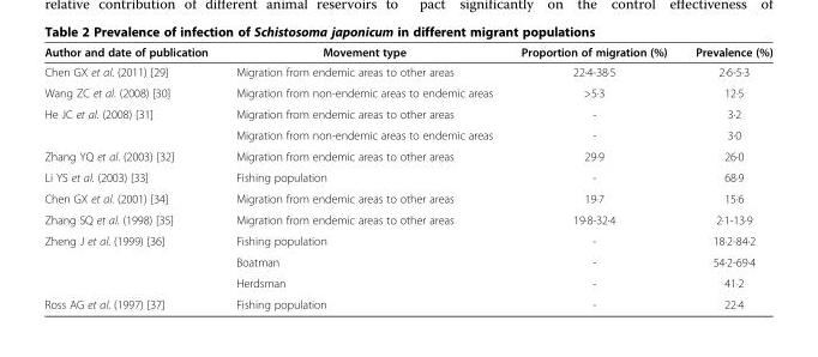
<table><thead><tr><td>Author and date of publication</td><td>Movement type</td><td>Proportion of migration (%)</td><td>Prevalence (%)</td></tr></thead><tbody><tr><td>Chen GX et al. (2011) [29]</td><td>Migration from endemic areas to other areas</td><td>22·4-38·5</td><td>2·6-5·3</td></tr><tr><td>Wang ZC et al. (2008) [30]</td><td>Migration from non-endemic areas to endemic areas</td><td>&gt;5·3</td><td>12·5</td></tr><tr><td rowspan="2">He JC et al. (2008) [31]</td><td>Migration from endemic areas to other areas</td><td>-</td><td>3·2</td></tr><tr><td>Migration from non-endemic areas to endemic areas</td><td>-</td><td>3·0</td></tr><tr><td>Zhang YQ et al. (2003) [32]</td><td>Migration from endemic areas to other areas</td><td>29·9</td><td>26·0</td></tr><tr><td>Li YS et al. (2003) [33]</td><td>Fishing population</td><td>-</td><td>68·9</td></tr><tr><td>Chen GX et al. (2001) [34]</td><td>Migration from endemic areas to other areas</td><td>19·7</td><td>15·6</td></tr><tr><td>Zhang SQ et al. (1998) [35]</td><td>Migration from endemic areas to other areas</td><td>19·8-32·4</td><td>2·1-13·9</td></tr><tr><td rowspan="3">Zheng J et al. (1999) [36]</td><td>Fishing population</td><td>-</td><td>18·2-84·2</td></tr><tr><td>Boatman</td><td>-</td><td>54·2-69·4</td></tr><tr><td>Herdsman</td><td>-</td><td>41·2</td></tr><tr><td>Ross AG et al. (1997) [37]</td><td>Fishing population</td><td>-</td><td>22·4</td></tr></tbody></table>